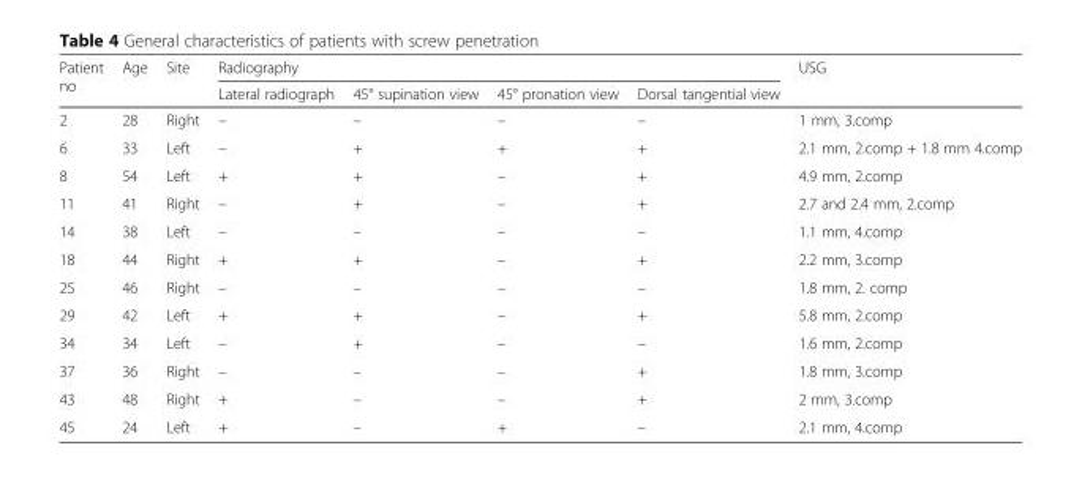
<table><thead><tr><td rowspan="2">Patient no</td><td rowspan="2">Age</td><td rowspan="2">Site</td><td colspan="4">Radiography</td><td rowspan="2">USG</td></tr><tr><td>Lateral radiograph</td><td>45° supination view</td><td>45° pronation view</td><td>Dorsal tangential view</td></tr></thead><tbody><tr><td>2</td><td>28</td><td>Right</td><td>–</td><td>–</td><td>–</td><td>–</td><td>1 mm, 3.comp</td></tr><tr><td>6</td><td>33</td><td>Left</td><td>–</td><td>+</td><td>+</td><td>+</td><td>2.1 mm, 2.comp + 1.8 mm 4.comp</td></tr><tr><td>8</td><td>54</td><td>Left</td><td>+</td><td>+</td><td>–</td><td>+</td><td>4.9 mm, 2.comp</td></tr><tr><td>11</td><td>41</td><td>Right</td><td>–</td><td>+</td><td>–</td><td>+</td><td>2.7 and 2.4 mm, 2.comp</td></tr><tr><td>14</td><td>38</td><td>Left</td><td>–</td><td>–</td><td>–</td><td>–</td><td>1.1 mm, 4.comp</td></tr><tr><td>18</td><td>44</td><td>Right</td><td>+</td><td>+</td><td>–</td><td>+</td><td>2.2 mm, 3.comp</td></tr><tr><td>25</td><td>46</td><td>Right</td><td>–</td><td>–</td><td>–</td><td>–</td><td>1.8 mm, 2. comp</td></tr><tr><td>29</td><td>42</td><td>Left</td><td>+</td><td>+</td><td>–</td><td>+</td><td>5.8 mm, 2.comp</td></tr><tr><td>34</td><td>34</td><td>Left</td><td>–</td><td>+</td><td>–</td><td>–</td><td>1.6 mm, 2.comp</td></tr><tr><td>37</td><td>36</td><td>Right</td><td>–</td><td>–</td><td>–</td><td>+</td><td>1.8 mm, 3.comp</td></tr><tr><td>43</td><td>48</td><td>Right</td><td>+</td><td>–</td><td>–</td><td>+</td><td>2 mm, 3.comp</td></tr><tr><td>45</td><td>24</td><td>Left</td><td>+</td><td>–</td><td>+</td><td>–</td><td>2.1 mm, 4.comp</td></tr></tbody></table>